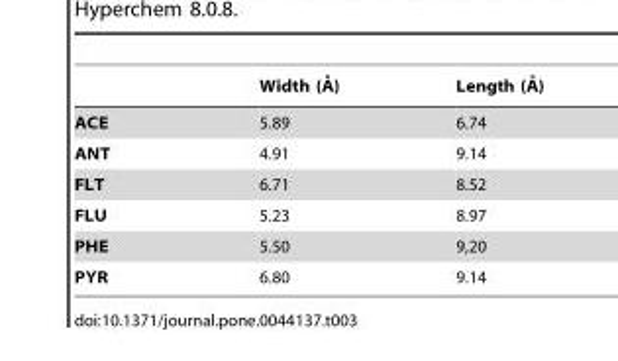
<table><thead><tr><td></td><td>Width (A˚ )</td><td>Length (A˚ )</td></tr></thead><tbody><tr><td>ACE</td><td>5.89</td><td>6.74</td></tr><tr><td>ANT</td><td>4.91</td><td>9.14</td></tr><tr><td>FLT</td><td>6.71</td><td>8.52</td></tr><tr><td>FLU</td><td>5.23</td><td>8.97</td></tr><tr><td>PHE</td><td>5.50</td><td>9,20</td></tr><tr><td>PYR</td><td>6.80</td><td>9.14</td></tr></tbody></table>